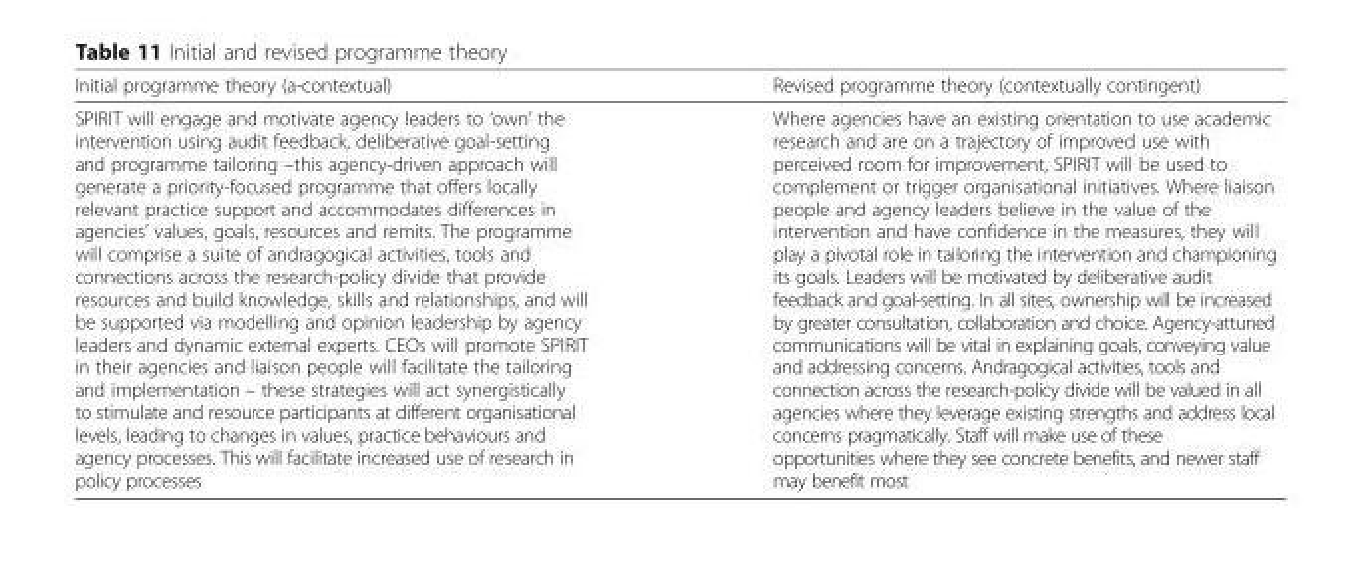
<table><thead><tr><td>Initial programme theory (a-contextual)</td><td>Revised programme theory (contextually contingent)</td></tr></thead><tbody><tr><td>SPIRIT will engage and motivate agency leaders to ‘own’ the intervention using audit feedback, deliberative goal-setting and programme tailoring –this agency-driven approach will generate a priority-focused programme that offers locally relevant practice support and accommodates differences in agencies’ values, goals, resources and remits. The programme will comprise a suite of andragogical activities, tools and connections across the research-policy divide that provide resources and build knowledge, skills and relationships, and will be supported via modelling and opinion leadership by agency leaders and dynamic external experts. CEOs will promote SPIRIT in their agencies and liaison people will facilitate the tailoring and implementation – these strategies will act synergistically to stimulate and resource participants at different organisational levels, leading to changes in values, practice behaviours and agency processes. This will facilitate increased use of research in policy processes</td><td>Where agencies have an existing orientation to use academic research and are on a trajectory of improved use with perceived room for improvement, SPIRIT will be used to complement or trigger organisational initiatives. Where liaison people and agency leaders believe in the value of the intervention and have confidence in the measures, they will play a pivotal role in tailoring the intervention and championing its goals. Leaders will be motivated by deliberative audit feedback and goal-setting. In all sites, ownership will be increased by greater consultation, collaboration and choice. Agency-attuned communications will be vital in explaining goals, conveying value and addressing concerns. Andragogical activities, tools and connection across the research-policy divide will be valued in all agencies where they leverage existing strengths and address local concerns pragmatically. Staff will make use of these opportunities where they see concrete benefits, and newer staff may benefit most</td></tr></tbody></table>